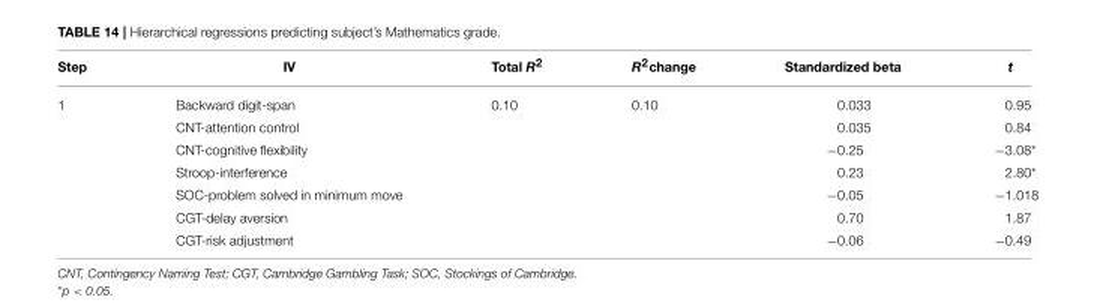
<table><thead><tr><td>Step</td><td>IV</td><td>Total R<sup>2</sup></td><td>R<sup>2</sup>change</td><td>Standardized beta</td><td>t</td></tr></thead><tbody><tr><td rowspan="7">1</td><td>Backward digit-span</td><td>0.10</td><td>0.10</td><td>0.033</td><td>0.95</td></tr><tr><td>CNT-attention control</td><td></td><td></td><td>0.035</td><td>0.84</td></tr><tr><td>CNT-cognitive flexibility</td><td></td><td></td><td>−0.25</td><td>−3.08*</td></tr><tr><td>Stroop-interference</td><td></td><td></td><td>0.23</td><td>2.80*</td></tr><tr><td>SOC-problem solved in minimum move</td><td></td><td></td><td>−0.05</td><td>−1.018</td></tr><tr><td>CGT-delay aversion</td><td></td><td></td><td>0.70</td><td>1.87</td></tr><tr><td>CGT-risk adjustment</td><td></td><td></td><td>−0.06</td><td>−0.49</td></tr></tbody></table>